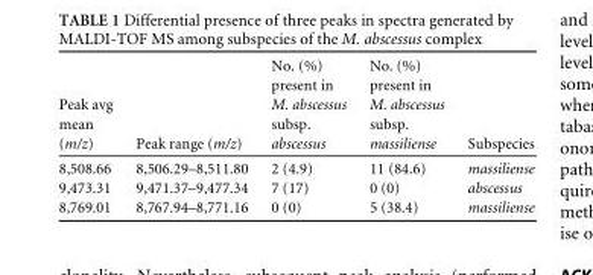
<table><thead><tr><td>Peak avg mean (m/z)</td><td>Peak range (m/z)</td><td>No. (%) present in M. abscessus subsp. abscessus</td><td>No. (%) present in M. abscessus subsp. massiliense</td><td>Subspecies</td></tr></thead><tbody><tr><td>8,508.66</td><td>8,506.29–8,511.80</td><td>2 (4.9)</td><td>11 (84.6)</td><td>massiliense</td></tr><tr><td>9,473.31</td><td>9,471.37–9,477.34</td><td>7 (17)</td><td>0 (0)</td><td>abscessus</td></tr><tr><td>8,769.01</td><td>8,767.94–8,771.16</td><td>0 (0)</td><td>5 (38.4)</td><td>massiliense</td></tr></tbody></table>